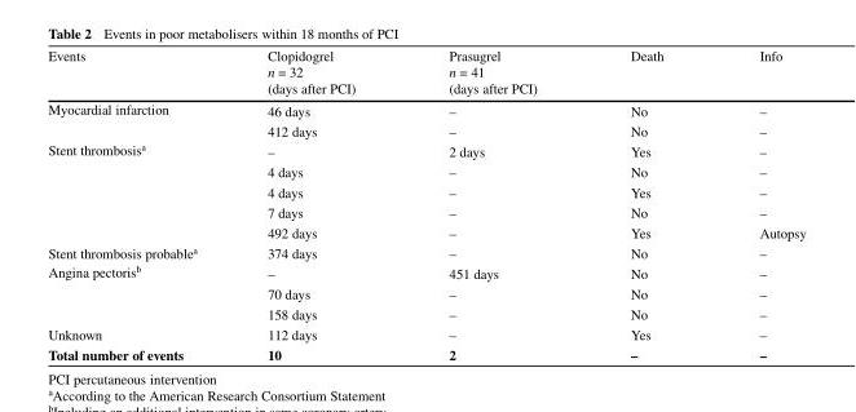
<table><thead><tr><td>Events</td><td>Clopidogrel n = 32 (days after PCI)</td><td>Prasugrel n = 41 (days after PCI)</td><td>Death</td><td>Info</td></tr></thead><tbody><tr><td rowspan="2">Myocardial infarction</td><td>46 days</td><td>–</td><td>No</td><td>–</td></tr><tr><td>412 days</td><td>–</td><td>No</td><td>–</td></tr><tr><td rowspan="5">Stent thrombosis<sup>a</sup></td><td>–</td><td>2 days</td><td>Yes</td><td>–</td></tr><tr><td>4 days</td><td>–</td><td>No</td><td>–</td></tr><tr><td>4 days</td><td>–</td><td>Yes</td><td>–</td></tr><tr><td>7 days</td><td>–</td><td>No</td><td>–</td></tr><tr><td>492 days</td><td>–</td><td>Yes</td><td>Autopsy</td></tr><tr><td>Stent thrombosis probable<sup>a</sup></td><td>374 days</td><td>–</td><td>No</td><td>–</td></tr><tr><td rowspan="3">Angina pectoris<sup>b</sup></td><td>–</td><td>451 days</td><td>No</td><td>–</td></tr><tr><td>70 days</td><td>–</td><td>No</td><td>–</td></tr><tr><td>158 days</td><td>–</td><td>No</td><td>–</td></tr><tr><td>Unknown</td><td>112 days</td><td>–</td><td>Yes</td><td>–</td></tr><tr><td>Total number of events</td><td>10</td><td>2</td><td>–</td><td>–</td></tr></tbody></table>